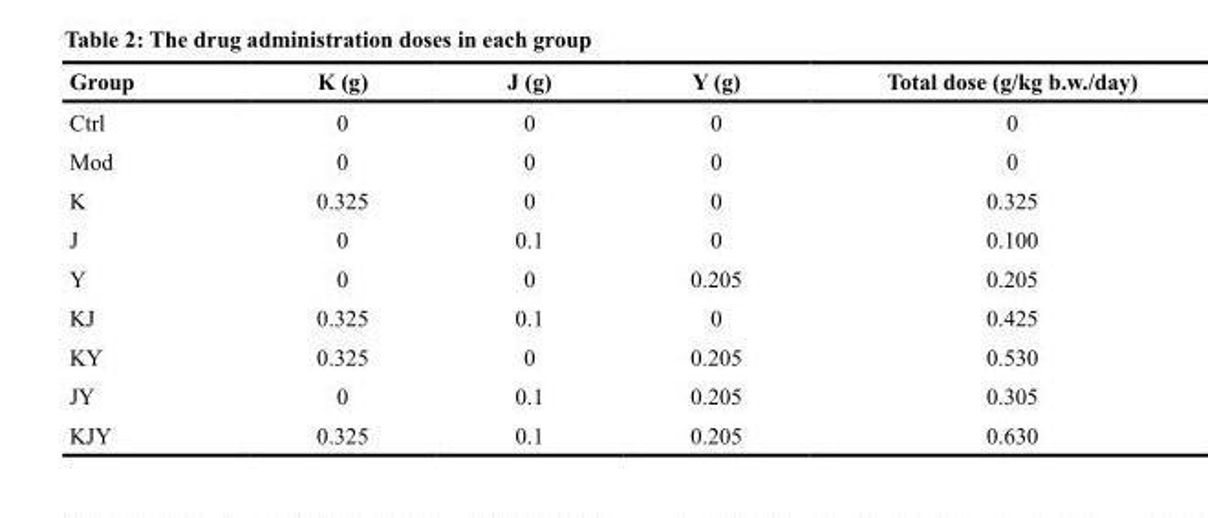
<table><thead><tr><td>Group</td><td>K (g)</td><td>J (g)</td><td>Y (g)</td><td>Total dose (g/kg b.w./day)</td></tr></thead><tbody><tr><td>Ctrl</td><td>0</td><td>0</td><td>0</td><td>0</td></tr><tr><td>Mod</td><td>0</td><td>0</td><td>0</td><td>0</td></tr><tr><td>K</td><td>0.325</td><td>0</td><td>0</td><td>0.325</td></tr><tr><td>J</td><td>0</td><td>0.1</td><td>0</td><td>0.100</td></tr><tr><td>Y</td><td>0</td><td>0</td><td>0.205</td><td>0.205</td></tr><tr><td>KJ</td><td>0.325</td><td>0.1</td><td>0</td><td>0.425</td></tr><tr><td>KY</td><td>0.325</td><td>0</td><td>0.205</td><td>0.530</td></tr><tr><td>JY</td><td>0</td><td>0.1</td><td>0.205</td><td>0.305</td></tr><tr><td>KJY</td><td>0.325</td><td>0.1</td><td>0.205</td><td>0.630</td></tr></tbody></table>